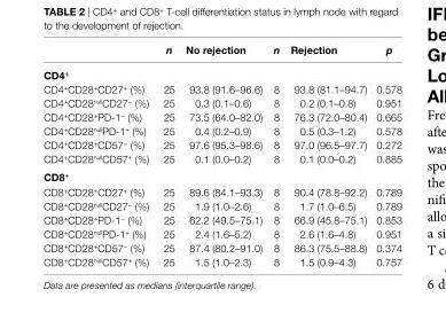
<table><thead><tr><td></td><td>n</td><td>no rejection</td><td>n</td><td>rejection</td><td>p</td></tr></thead><tbody><tr><td colspan="6">cD4<sup>+</sup></td></tr><tr><td>CD4<sup>+</sup>CD28<sup>+</sup>CD27<sup>+</sup> (%)</td><td>25</td><td>93.8 (91.6–96.6)</td><td>8</td><td>93.8 (81.1–94.7)</td><td>0.578</td></tr><tr><td>CD4<sup>+</sup>CD28<sup>null</sup>CD27<sup>−</sup> (%)</td><td>25</td><td>0.3 (0.1–0.6)</td><td>8</td><td>0.2 (0.1–0.8)</td><td>0.951</td></tr><tr><td>CD4<sup>+</sup>CD28<sup>+</sup>PD-1<sup>−</sup> (%)</td><td>25</td><td>73.5 (64.0–82.0)</td><td>8</td><td>76.3 (72.0–80.4)</td><td>0.665</td></tr><tr><td>CD4<sup>+</sup>CD28<sup>null</sup>PD-1<sup>+</sup> (%)</td><td>25</td><td>0.4 (0.2–0.9)</td><td>8</td><td>0.5 (0.3–1.2)</td><td>0.578</td></tr><tr><td>CD4<sup>+</sup>CD28<sup>+</sup>CD57<sup>−</sup> (%)</td><td>25</td><td>97.6 (95.3–98.6)</td><td>8</td><td>97.0 (96.5–97.7)</td><td>0.272</td></tr><tr><td>CD4<sup>+</sup>CD28<sup>null</sup>CD57<sup>+</sup> (%)</td><td>25</td><td>0.1 (0.0–0.2)</td><td>8</td><td>0.1 (0.0–0.2)</td><td>0.885</td></tr><tr><td colspan="6">cD8<sup>+</sup></td></tr><tr><td>CD8<sup>+</sup>CD28<sup>+</sup>CD27<sup>+</sup> (%)</td><td>25</td><td>89.6 (84.1–93.3)</td><td>8</td><td>90.4 (78.8–92.2)</td><td>0.789</td></tr><tr><td>CD8<sup>+</sup>CD28<sup>null</sup>CD27<sup>−</sup> (%)</td><td>25</td><td>1.9 (1.0–2.6)</td><td>8</td><td>1.7 (1.0–6.5)</td><td>0.789</td></tr><tr><td>CD8<sup>+</sup>CD28<sup>+</sup>PD-1<sup>−</sup> (%)</td><td>25</td><td>62.2 (49.5–75.1)</td><td>8</td><td>66.9 (45.8–75.1)</td><td>0.853</td></tr><tr><td>CD8<sup>+</sup>CD28<sup>null</sup>PD-1<sup>+</sup> (%)</td><td>25</td><td>2.4 (1.6–5.2)</td><td>8</td><td>2.6 (1.6–4.8)</td><td>0.951</td></tr><tr><td>CD8<sup>+</sup>CD28<sup>+</sup>CD57<sup>−</sup> (%)</td><td>25</td><td>87.4 (80.2–91.0)</td><td>8</td><td>86.3 (75.5–88.8)</td><td>0.374</td></tr><tr><td>CD8<sup>+</sup>CD28<sup>null</sup>CD57<sup>+</sup> (%)</td><td>25</td><td>1.5 (1.0–2.3)</td><td>8</td><td>1.5 (0.9–4.3)</td><td>0.757</td></tr></tbody></table>